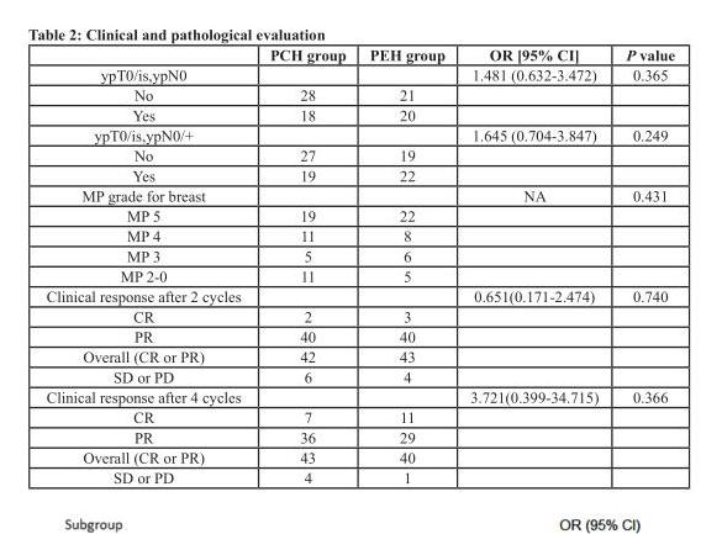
<table><thead><tr><td></td><td>PCH group</td><td>PEH group</td><td>OR [95% CI]</td><td>P value</td></tr></thead><tbody><tr><td>ypT0/is,ypN0</td><td></td><td></td><td>1.481 (0.632-3.472)</td><td>0.365</td></tr><tr><td>No</td><td>28</td><td>21</td><td></td><td></td></tr><tr><td>Yes</td><td>18</td><td>20</td><td></td><td></td></tr><tr><td>ypT0/is,ypN0/+</td><td></td><td></td><td>1.645 (0.704-3.847)</td><td>0.249</td></tr><tr><td>No</td><td>27</td><td>19</td><td></td><td></td></tr><tr><td>Yes</td><td>19</td><td>22</td><td></td><td></td></tr><tr><td>MP grade for breast</td><td></td><td></td><td>NA</td><td>0.431</td></tr><tr><td>MP 5</td><td>19</td><td>22</td><td></td><td></td></tr><tr><td>MP 4</td><td>11</td><td>8</td><td></td><td></td></tr><tr><td>MP 3</td><td>5</td><td>6</td><td></td><td></td></tr><tr><td>MP 2-0</td><td>11</td><td>5</td><td></td><td></td></tr><tr><td>Clinical response after 2 cycles</td><td></td><td></td><td>0.651(0.171-2.474)</td><td>0.740</td></tr><tr><td>CR</td><td>2</td><td>3</td><td></td><td></td></tr><tr><td>PR</td><td>40</td><td>40</td><td></td><td></td></tr><tr><td>Overall (CR or PR)</td><td>42</td><td>43</td><td></td><td></td></tr><tr><td>SD or PD</td><td>6</td><td>4</td><td></td><td></td></tr><tr><td>Clinical response after 4 cycles</td><td></td><td></td><td>3.721(0.399-34.715)</td><td>0.366</td></tr><tr><td>CR</td><td>7</td><td>11</td><td></td><td></td></tr><tr><td>PR</td><td>36</td><td>29</td><td></td><td></td></tr><tr><td>Overall (CR or PR)</td><td>43</td><td>40</td><td></td><td></td></tr><tr><td>SD or PD</td><td>4</td><td>1</td><td></td><td></td></tr></tbody></table>